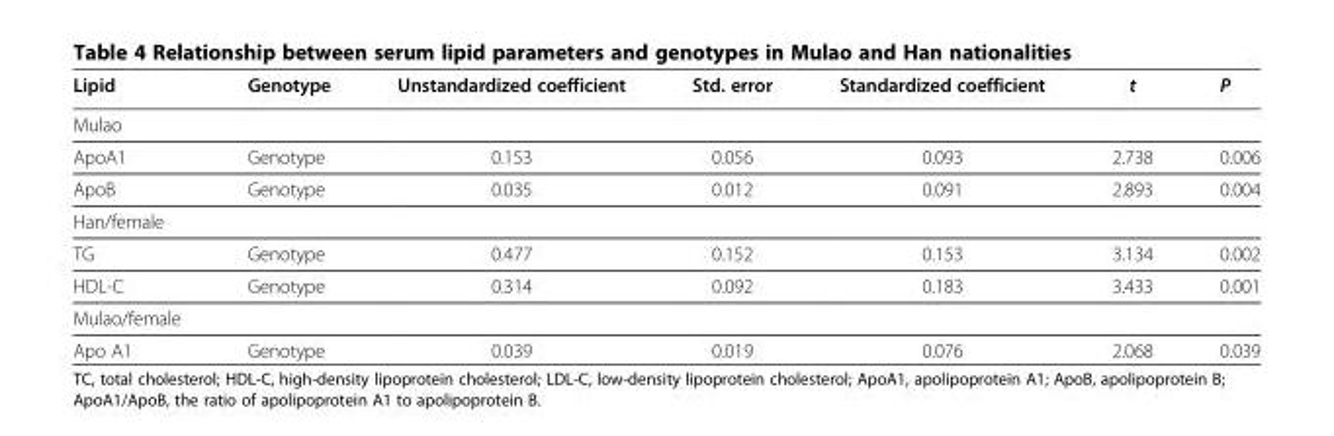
<table><thead><tr><td>Lipid</td><td>Genotype</td><td>Unstandardized coefficient</td><td>Std. error</td><td>Standardized coefficient</td><td>t</td><td>P</td></tr></thead><tbody><tr><td colspan="7">Mulao</td></tr><tr><td>ApoA1</td><td>Genotype</td><td>0.153</td><td>0.056</td><td>0.093</td><td>2.738</td><td>0.006</td></tr><tr><td>ApoB</td><td>Genotype</td><td>0.035</td><td>0.012</td><td>0.091</td><td>2.893</td><td>0.004</td></tr><tr><td colspan="7">Han/female</td></tr><tr><td>TG</td><td>Genotype</td><td>0.477</td><td>0.152</td><td>0.153</td><td>3.134</td><td>0.002</td></tr><tr><td>HDL-C</td><td>Genotype</td><td>0.314</td><td>0.092</td><td>0.183</td><td>3.433</td><td>0.001</td></tr><tr><td colspan="7">Mulao/female</td></tr><tr><td>Apo A1</td><td>Genotype</td><td>0.039</td><td>0.019</td><td>0.076</td><td>2.068</td><td>0.039</td></tr></tbody></table>